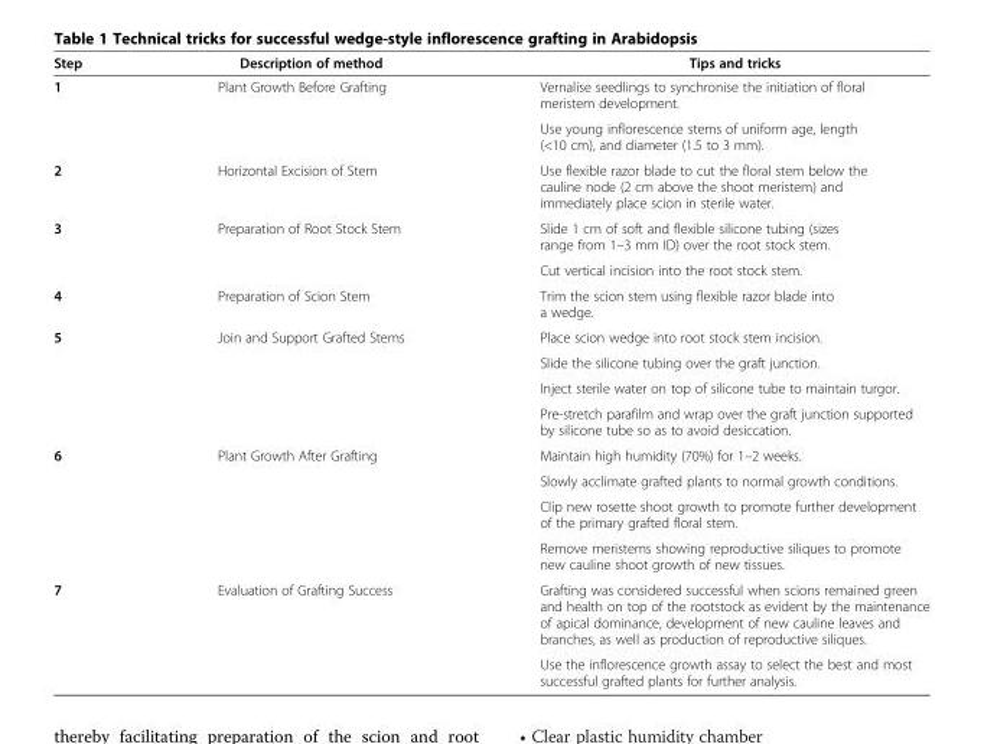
<table><thead><tr><td>Step</td><td>Description of method</td><td>Tips and tricks</td></tr></thead><tbody><tr><td rowspan="2">1</td><td>Plant Growth Before Grafting</td><td>Vernalise seedlings to synchronise the initiation of floral meristem development.</td></tr><tr><td></td><td>Use young inflorescence stems of uniform age, length (&lt;10 cm), and diameter (1.5 to 3 mm).</td></tr><tr><td>2</td><td>Horizontal Excision of Stem</td><td>Use flexible razor blade to cut the floral stem below the cauline node (2 cm above the shoot meristem) and immediately place scion in sterile water.</td></tr><tr><td rowspan="2">3</td><td>Preparation of Root Stock Stem</td><td>Slide 1 cm of soft and flexible silicone tubing (sizes range from 1–3 mm ID) over the root stock stem.</td></tr><tr><td></td><td>Cut vertical incision into the root stock stem.</td></tr><tr><td>4</td><td>Preparation of Scion Stem</td><td>Trim the scion stem using flexible razor blade into a wedge.</td></tr><tr><td rowspan="4">5</td><td>Join and Support Grafted Stems</td><td>Place scion wedge into root stock stem incision.</td></tr><tr><td></td><td>Slide the silicone tubing over the graft junction.</td></tr><tr><td></td><td>Inject sterile water on top of silicone tube to maintain turgor.</td></tr><tr><td></td><td>Pre-stretch parafilm and wrap over the graft junction supported by silicone tube so as to avoid desiccation.</td></tr><tr><td rowspan="4">6</td><td>Plant Growth After Grafting</td><td>Maintain high humidity (70%) for 1–2 weeks.</td></tr><tr><td></td><td>Slowly acclimate grafted plants to normal growth conditions.</td></tr><tr><td></td><td>Clip new rosette shoot growth to promote further development of the primary grafted floral stem.</td></tr><tr><td></td><td>Remove meristems showing reproductive siliques to promote new cauline shoot growth of new tissues.</td></tr><tr><td rowspan="2">7</td><td>Evaluation of Grafting Success</td><td>Grafting was considered successful when scions remained green and health on top of the rootstock as evident by the maintenance of apical dominance, development of new cauline leaves and branches, as well as production of reproductive siliques.</td></tr><tr><td></td><td>Use the inflorescence growth assay to select the best and most successful grafted plants for further analysis.</td></tr></tbody></table>